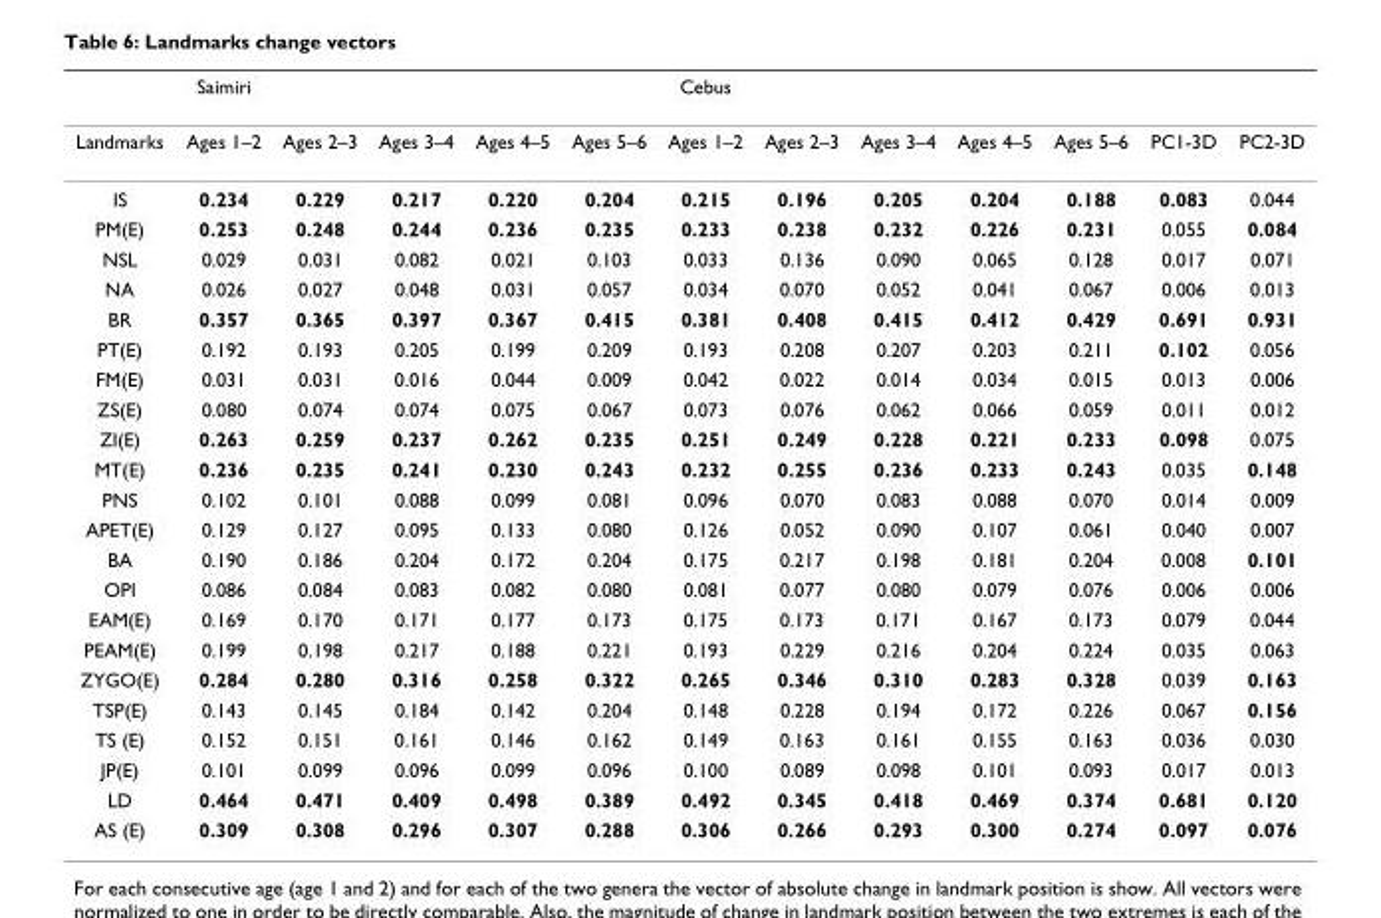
<table><thead><tr><td></td><td>Saimiri</td><td></td><td></td><td></td><td></td><td>Cebus</td><td></td><td></td><td></td><td></td><td></td><td></td></tr></thead><tbody><tr><td>Landmarks</td><td>Ages 1–2</td><td>Ages 2–3</td><td>Ages 3–4</td><td>Ages 4–5</td><td>Ages 5–6</td><td>Ages 1–2</td><td>Ages 2–3</td><td>Ages 3–4</td><td>Ages 4–5</td><td>Ages 5–6</td><td>PC1-3D</td><td>PC2-3D</td></tr><tr><td>IS</td><td>0.234</td><td>0.229</td><td>0.217</td><td>0.220</td><td>0.204</td><td>0.215</td><td>0.196</td><td>0.205</td><td>0.204</td><td>0.188</td><td>0.083</td><td>0.044</td></tr><tr><td>PM(E)</td><td>0.253</td><td>0.248</td><td>0.244</td><td>0.236</td><td>0.235</td><td>0.233</td><td>0.238</td><td>0.232</td><td>0.226</td><td>0.231</td><td>0.055</td><td>0.084</td></tr><tr><td>NSL</td><td>0.029</td><td>0.031</td><td>0.082</td><td>0.021</td><td>0.103</td><td>0.033</td><td>0.136</td><td>0.090</td><td>0.065</td><td>0.128</td><td>0.017</td><td>0.071</td></tr><tr><td>NA</td><td>0.026</td><td>0.027</td><td>0.048</td><td>0.031</td><td>0.057</td><td>0.034</td><td>0.070</td><td>0.052</td><td>0.041</td><td>0.067</td><td>0.006</td><td>0.013</td></tr><tr><td>BR</td><td>0.357</td><td>0.365</td><td>0.397</td><td>0.367</td><td>0.415</td><td>0.381</td><td>0.408</td><td>0.415</td><td>0.412</td><td>0.429</td><td>0.691</td><td>0.931</td></tr><tr><td>PT(E)</td><td>0.192</td><td>0.193</td><td>0.205</td><td>0.199</td><td>0.209</td><td>0.193</td><td>0.208</td><td>0.207</td><td>0.203</td><td>0.211</td><td>0.102</td><td>0.056</td></tr><tr><td>FM(E)</td><td>0.031</td><td>0.031</td><td>0.016</td><td>0.044</td><td>0.009</td><td>0.042</td><td>0.022</td><td>0.014</td><td>0.034</td><td>0.015</td><td>0.013</td><td>0.006</td></tr><tr><td>ZS(E)</td><td>0.080</td><td>0.074</td><td>0.074</td><td>0.075</td><td>0.067</td><td>0.073</td><td>0.076</td><td>0.062</td><td>0.066</td><td>0.059</td><td>0.011</td><td>0.012</td></tr><tr><td>ZI(E)</td><td>0.263</td><td>0.259</td><td>0.237</td><td>0.262</td><td>0.235</td><td>0.251</td><td>0.249</td><td>0.228</td><td>0.221</td><td>0.233</td><td>0.098</td><td>0.075</td></tr><tr><td>MT(E)</td><td>0.236</td><td>0.235</td><td>0.241</td><td>0.230</td><td>0.243</td><td>0.232</td><td>0.255</td><td>0.236</td><td>0.233</td><td>0.243</td><td>0.035</td><td>0.148</td></tr><tr><td>PNS</td><td>0.102</td><td>0.101</td><td>0.088</td><td>0.099</td><td>0.081</td><td>0.096</td><td>0.070</td><td>0.083</td><td>0.088</td><td>0.070</td><td>0.014</td><td>0.009</td></tr><tr><td>APET(E)</td><td>0.129</td><td>0.127</td><td>0.095</td><td>0.133</td><td>0.080</td><td>0.126</td><td>0.052</td><td>0.090</td><td>0.107</td><td>0.061</td><td>0.040</td><td>0.007</td></tr><tr><td>BA</td><td>0.190</td><td>0.186</td><td>0.204</td><td>0.172</td><td>0.204</td><td>0.175</td><td>0.217</td><td>0.198</td><td>0.181</td><td>0.204</td><td>0.008</td><td>0.101</td></tr><tr><td>OPI</td><td>0.086</td><td>0.084</td><td>0.083</td><td>0.082</td><td>0.080</td><td>0.081</td><td>0.077</td><td>0.080</td><td>0.079</td><td>0.076</td><td>0.006</td><td>0.006</td></tr><tr><td>EAM(E)</td><td>0.169</td><td>0.170</td><td>0.171</td><td>0.177</td><td>0.173</td><td>0.175</td><td>0.173</td><td>0.171</td><td>0.167</td><td>0.173</td><td>0.079</td><td>0.044</td></tr><tr><td>PEAM(E)</td><td>0.199</td><td>0.198</td><td>0.217</td><td>0.188</td><td>0.221</td><td>0.193</td><td>0.229</td><td>0.216</td><td>0.204</td><td>0.224</td><td>0.035</td><td>0.063</td></tr><tr><td>ZYGO(E)</td><td>0.284</td><td>0.280</td><td>0.316</td><td>0.258</td><td>0.322</td><td>0.265</td><td>0.346</td><td>0.310</td><td>0.283</td><td>0.328</td><td>0.039</td><td>0.163</td></tr><tr><td>TSP(E)</td><td>0.143</td><td>0.145</td><td>0.184</td><td>0.142</td><td>0.204</td><td>0.148</td><td>0.228</td><td>0.194</td><td>0.172</td><td>0.226</td><td>0.067</td><td>0.156</td></tr><tr><td>TS (E)</td><td>0.152</td><td>0.151</td><td>0.161</td><td>0.146</td><td>0.162</td><td>0.149</td><td>0.163</td><td>0.161</td><td>0.155</td><td>0.163</td><td>0.036</td><td>0.030</td></tr><tr><td>JP(E)</td><td>0.101</td><td>0.099</td><td>0.096</td><td>0.099</td><td>0.096</td><td>0.100</td><td>0.089</td><td>0.098</td><td>0.101</td><td>0.093</td><td>0.017</td><td>0.013</td></tr><tr><td>LD</td><td>0.464</td><td>0.471</td><td>0.409</td><td>0.498</td><td>0.389</td><td>0.492</td><td>0.345</td><td>0.418</td><td>0.469</td><td>0.374</td><td>0.681</td><td>0.120</td></tr><tr><td>AS (E)</td><td>0.309</td><td>0.308</td><td>0.296</td><td>0.307</td><td>0.288</td><td>0.306</td><td>0.266</td><td>0.293</td><td>0.300</td><td>0.274</td><td>0.097</td><td>0.076</td></tr></tbody></table>